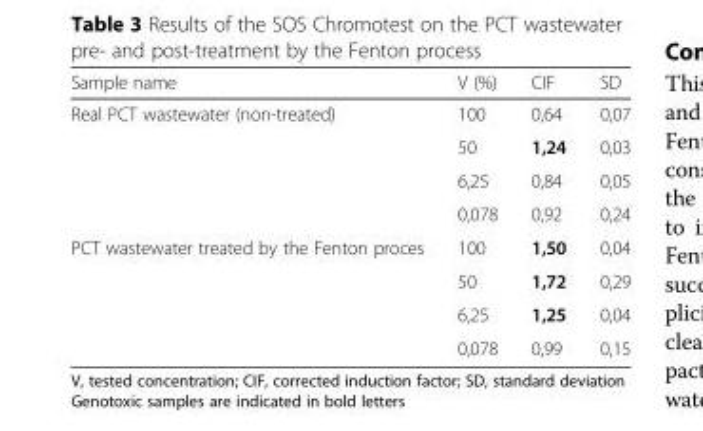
<table><thead><tr><td>Sample name</td><td>V (%)</td><td>CIF</td><td>SD</td></tr></thead><tbody><tr><td rowspan="4">Real PCT wastewater (non-treated)</td><td>100</td><td>0,64</td><td>0,07</td></tr><tr><td>50</td><td>1,24</td><td>0,03</td></tr><tr><td>6,25</td><td>0,84</td><td>0,05</td></tr><tr><td>0,078</td><td>0,92</td><td>0,24</td></tr><tr><td rowspan="4">PCT wastewater treated by the Fenton proces</td><td>100</td><td>1,50</td><td>0,04</td></tr><tr><td>50</td><td>1,72</td><td>0,29</td></tr><tr><td>6,25</td><td>1,25</td><td>0,04</td></tr><tr><td>0,078</td><td>0,99</td><td>0,15</td></tr></tbody></table>